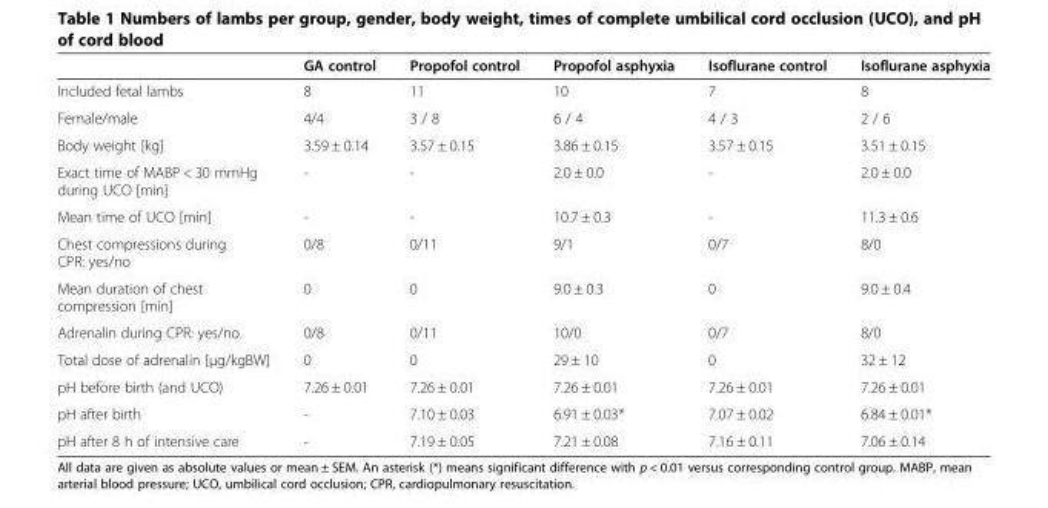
<table><thead><tr><td></td><td>GA control</td><td>Propofol control</td><td>Propofol asphyxia</td><td>Isoflurane control</td><td>Isoflurane asphyxia</td></tr></thead><tbody><tr><td>Included fetal lambs</td><td>8</td><td>11</td><td>10</td><td>7</td><td>8</td></tr><tr><td>Female/male</td><td>4/4</td><td>3 / 8</td><td>6 / 4</td><td>4 / 3</td><td>2 / 6</td></tr><tr><td>Body weight [kg]</td><td>3.59 ± 0.14</td><td>3.57 ± 0.15</td><td>3.86 ± 0.15</td><td>3.57 ± 0.15</td><td>3.51 ± 0.15</td></tr><tr><td>Exact time of MABP &lt; 30 mmHg during UCO [min]</td><td>-</td><td>-</td><td>2.0 ± 0.0</td><td>-</td><td>2.0 ± 0.0</td></tr><tr><td>Mean time of UCO [min]</td><td>-</td><td>-</td><td>10.7 ± 0.3</td><td>-</td><td>11.3 ± 0.6</td></tr><tr><td>Chest compressions during CPR: yes/no</td><td>0/8</td><td>0/11</td><td>9/1</td><td>0/7</td><td>8/0</td></tr><tr><td>Mean duration of chest compression [min]</td><td>0</td><td>0</td><td>9.0 ± 0.3</td><td>0</td><td>9.0 ± 0.4</td></tr><tr><td>Adrenalin during CPR: yes/no</td><td>0/8</td><td>0/11</td><td>10/0</td><td>0/7</td><td>8/0</td></tr><tr><td>Total dose of adrenalin [μg/kgBW]</td><td>0</td><td>0</td><td>29 ± 10</td><td>0</td><td>32 ± 12</td></tr><tr><td>pH before birth (and UCO)</td><td>7.26 ± 0.01</td><td>7.26 ± 0.01</td><td>7.26 ± 0.01</td><td>7.26 ± 0.01</td><td>7.26 ± 0.01</td></tr><tr><td>pH after birth</td><td>-</td><td>7.10 ± 0.03</td><td>6.91 ± 0.03*</td><td>7.07 ± 0.02</td><td>6.84 ± 0.01*</td></tr><tr><td>pH after 8 h of intensive care</td><td>-</td><td>7.19 ± 0.05</td><td>7.21 ± 0.08</td><td>7.16 ± 0.11</td><td>7.06 ± 0.14</td></tr></tbody></table>